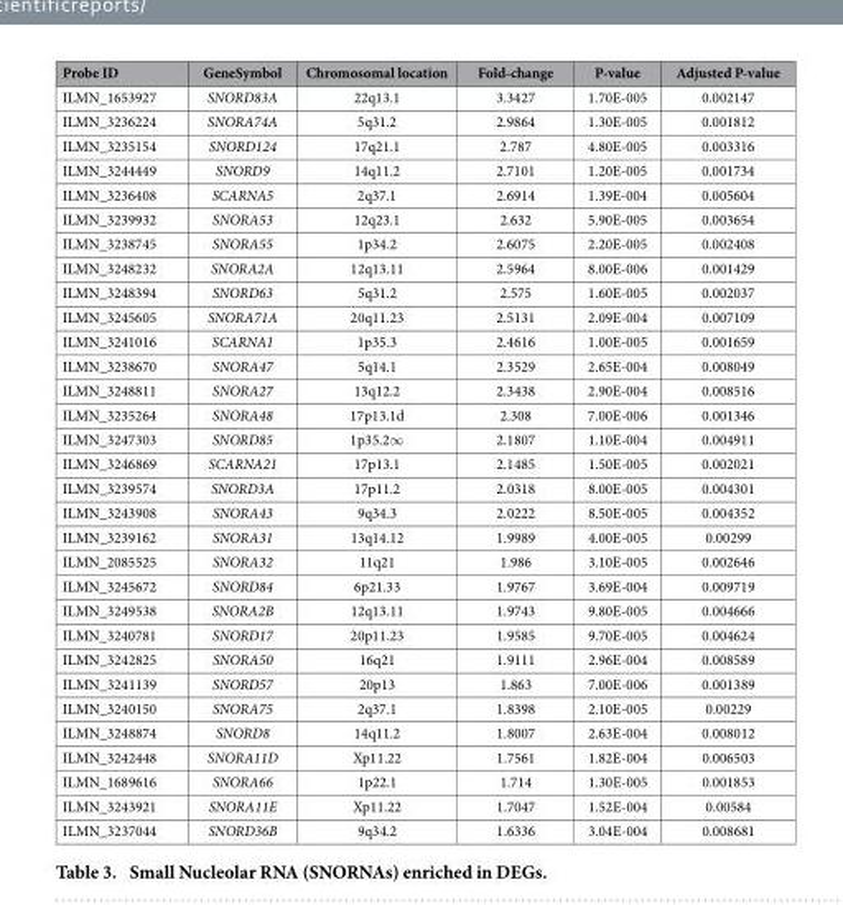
<table><thead><tr><td>Probe ID</td><td>GeneSymbol</td><td>Chromosomal location</td><td>Fold-change</td><td>P-value</td><td>Adjusted P-value</td></tr></thead><tbody><tr><td>ILMN_1653927</td><td>SNORD83A</td><td>22q13.1</td><td>3.3427</td><td>1.70E-005</td><td>0.002147</td></tr><tr><td>ILMN_3236224</td><td>SNORA74A</td><td>5q31.2</td><td>2.9864</td><td>1.30E-005</td><td>0.001812</td></tr><tr><td>ILMN_3235154</td><td>SNORD124</td><td>17q21.1</td><td>2.787</td><td>4.80E-005</td><td>0.003316</td></tr><tr><td>ILMN_3244449</td><td>SNORD9</td><td>14q11.2</td><td>2.7101</td><td>1.20E-005</td><td>0.001734</td></tr><tr><td>ILMN_3236408</td><td>SCARNA5</td><td>2q37.1</td><td>2.6914</td><td>1.39E-004</td><td>0.005604</td></tr><tr><td>ILMN_3239932</td><td>SNORA53</td><td>12q23.1</td><td>2.632</td><td>5.90E-005</td><td>0.003654</td></tr><tr><td>ILMN_3238745</td><td>SNORA55</td><td>1p34.2</td><td>2.6075</td><td>2.20E-005</td><td>0.002408</td></tr><tr><td>ILMN_3248232</td><td>SNORA2A</td><td>12q13.11</td><td>2.5964</td><td>8.00E-006</td><td>0.001429</td></tr><tr><td>ILMN_3248394</td><td>SNORD63</td><td>5q31.2</td><td>2.575</td><td>1.60E-005</td><td>0.002037</td></tr><tr><td>ILMN_3245605</td><td>SNORA71A</td><td>20q11.23</td><td>2.5131</td><td>2.09E-004</td><td>0.007109</td></tr><tr><td>ILMN_3241016</td><td>SCARNA1</td><td>1p35.3</td><td>2.4616</td><td>1.00E-005</td><td>0.001659</td></tr><tr><td>ILMN_3238670</td><td>SNORA47</td><td>5q14.1</td><td>2.3529</td><td>2.65E-004</td><td>0.008049</td></tr><tr><td>ILMN_3248811</td><td>SNORA27</td><td>13q12.2</td><td>2.3438</td><td>2.90E-004</td><td>0.008516</td></tr><tr><td>ILMN_3235264</td><td>SNORA48</td><td>17p13.1d</td><td>2.308</td><td>7.00E-006</td><td>0.001346</td></tr><tr><td>ILMN_3247303</td><td>SNORD85</td><td>1p35.2∞</td><td>2.1807</td><td>1.10E-004</td><td>0.004911</td></tr><tr><td>ILMN_3246869</td><td>SCARNA21</td><td>17p13.1</td><td>2.1485</td><td>1.50E-005</td><td>0.002021</td></tr><tr><td>ILMN_3239574</td><td>SNORD3A</td><td>17p11.2</td><td>2.0318</td><td>8.00E-005</td><td>0.004301</td></tr><tr><td>ILMN_3243908</td><td>SNORA43</td><td>9q34.3</td><td>2.0222</td><td>8.50E-005</td><td>0.004352</td></tr><tr><td>ILMN_3239162</td><td>SNORA31</td><td>13q14.12</td><td>1.9989</td><td>4.00E-005</td><td>0.00299</td></tr><tr><td>ILMN_2085525</td><td>SNORA32</td><td>11q21</td><td>1.986</td><td>3.10E-005</td><td>0.002646</td></tr><tr><td>ILMN_3245672</td><td>SNORD84</td><td>6p21.33</td><td>1.9767</td><td>3.69E-004</td><td>0.009719</td></tr><tr><td>ILMN_3249538</td><td>SNORA2B</td><td>12q13.11</td><td>1.9743</td><td>9.80E-005</td><td>0.004666</td></tr><tr><td>ILMN_3240781</td><td>SNORD17</td><td>20p11.23</td><td>1.9585</td><td>9.70E-005</td><td>0.004624</td></tr><tr><td>ILMN_3242825</td><td>SNORA50</td><td>16q21</td><td>1.9111</td><td>2.96E-004</td><td>0.008589</td></tr><tr><td>ILMN_3241139</td><td>SNORD57</td><td>20p13</td><td>1.863</td><td>7.00E-006</td><td>0.001389</td></tr><tr><td>ILMN_3240150</td><td>SNORA75</td><td>2q37.1</td><td>1.8398</td><td>2.10E-005</td><td>0.00229</td></tr><tr><td>ILMN_3248874</td><td>SNORD8</td><td>14q11.2</td><td>1.8007</td><td>2.63E-004</td><td>0.008012</td></tr><tr><td>ILMN_3242448</td><td>SNORA11D</td><td>Xp11.22</td><td>1.7561</td><td>1.82E-004</td><td>0.006503</td></tr><tr><td>ILMN_1689616</td><td>SNORA66</td><td>1p22.1</td><td>1.714</td><td>1.30E-005</td><td>0.001853</td></tr><tr><td>ILMN_3243921</td><td>SNORA11E</td><td>Xp11.22</td><td>1.7047</td><td>1.52E-004</td><td>0.00584</td></tr><tr><td>ILMN_3237044</td><td>SNORD36B</td><td>9q34.2</td><td>1.6336</td><td>3.04E-004</td><td>0.008681</td></tr></tbody></table>